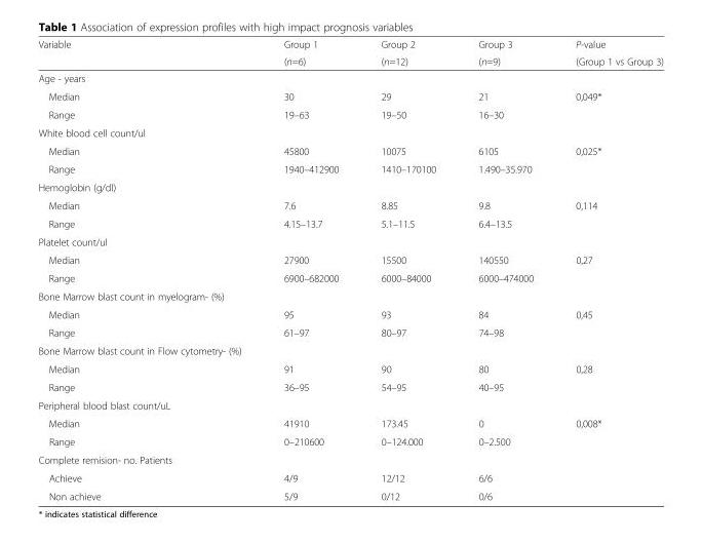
<table><thead><tr><td rowspan="2">Variable</td><td rowspan="2">Group 1 (n=6)</td><td rowspan="2">Group 2 (n=12)</td><td rowspan="2">Group 3 (n=9)</td><td rowspan="2">P-value (Group 1 vs Group 3)</td></tr><tr></tr></thead><tbody><tr><td colspan="5">Age - years</td></tr><tr><td>Median</td><td>30</td><td>29</td><td>21</td><td>0,049*</td></tr><tr><td>Range</td><td>19–63</td><td>19–50</td><td>16–30</td><td></td></tr><tr><td colspan="5">White blood cell count/ul</td></tr><tr><td>Median</td><td>45800</td><td>10075</td><td>6105</td><td>0,025*</td></tr><tr><td>Range</td><td>1940–412900</td><td>1410–170100</td><td>1.490–35.970</td><td></td></tr><tr><td colspan="5">Hemoglobin (g/dl)</td></tr><tr><td>Median</td><td>7.6</td><td>8.85</td><td>9.8</td><td>0,114</td></tr><tr><td>Range</td><td>4.15–13.7</td><td>5.1–11.5</td><td>6.4–13.5</td><td></td></tr><tr><td colspan="5">Platelet count/ul</td></tr><tr><td>Median</td><td>27900</td><td>15500</td><td>140550</td><td>0,27</td></tr><tr><td>Range</td><td>6900–682000</td><td>6000–84000</td><td>6000–474000</td><td></td></tr><tr><td colspan="5">Bone Marrow blast count in myelogram- (%)</td></tr><tr><td>Median</td><td>95</td><td>93</td><td>84</td><td>0,45</td></tr><tr><td>Range</td><td>61–97</td><td>80–97</td><td>74–98</td><td></td></tr><tr><td colspan="5">Bone Marrow blast count in Flow cytometry- (%)</td></tr><tr><td>Median</td><td>91</td><td>90</td><td>80</td><td>0,28</td></tr><tr><td>Range</td><td>36–95</td><td>54–95</td><td>40–95</td><td></td></tr><tr><td colspan="5">Peripheral blood blast count/uL</td></tr><tr><td>Median</td><td>41910</td><td>173.45</td><td>0</td><td>0,008*</td></tr><tr><td>Range</td><td>0–210600</td><td>0–124.000</td><td>0–2.500</td><td></td></tr><tr><td colspan="5">Complete remision- no. Patients</td></tr><tr><td>Achieve</td><td>4/9</td><td>12/12</td><td>6/6</td><td></td></tr><tr><td>Non achieve</td><td>5/9</td><td>0/12</td><td>0/6</td><td></td></tr></tbody></table>